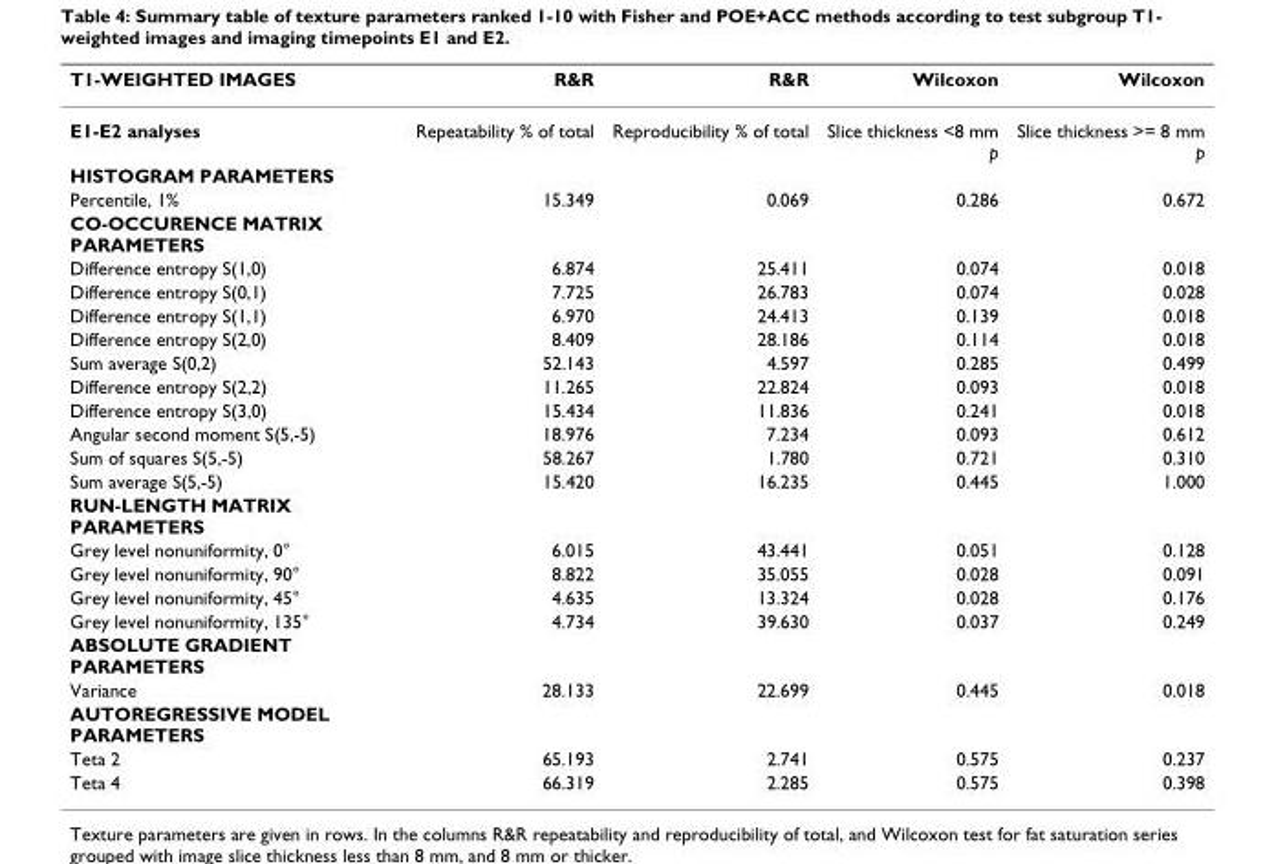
<table><thead><tr><td>T1-WEIGHTED IMAGES</td><td>R&amp;R</td><td>R&amp;R</td><td>Wilcoxon</td><td>Wilcoxon</td></tr></thead><tbody><tr><td>E1-E2 analyses</td><td>Repeatability % of total</td><td>Reproducibility % of total</td><td>Slice thickness &lt;8 mm p</td><td>Slice thickness &gt;= 8 mm p</td></tr><tr><td colspan="5">HISTOGRAM PARAMETERS</td></tr><tr><td>Percentile, 1%</td><td>15.349</td><td>0.069</td><td>0.286</td><td>0.672</td></tr><tr><td colspan="5">CO-OCCURENCE MATRIX PARAMETERS</td></tr><tr><td>Difference entropy S(1,0)</td><td>6.874</td><td>25.411</td><td>0.074</td><td>0.018</td></tr><tr><td>Difference entropy S(0,1)</td><td>7.725</td><td>26.783</td><td>0.074</td><td>0.028</td></tr><tr><td>Difference entropy S(1,1)</td><td>6.970</td><td>24.413</td><td>0.139</td><td>0.018</td></tr><tr><td>Difference entropy S(2,0)</td><td>8.409</td><td>28.186</td><td>0.114</td><td>0.018</td></tr><tr><td>Sum average S(0,2)</td><td>52.143</td><td>4.597</td><td>0.285</td><td>0.499</td></tr><tr><td>Difference entropy S(2,2)</td><td>11.265</td><td>22.824</td><td>0.093</td><td>0.018</td></tr><tr><td>Difference entropy S(3,0)</td><td>15.434</td><td>11.836</td><td>0.241</td><td>0.018</td></tr><tr><td>Angular second moment S(5,-5)</td><td>18.976</td><td>7.234</td><td>0.093</td><td>0.612</td></tr><tr><td>Sum of squares S(5,-5)</td><td>58.267</td><td>1.780</td><td>0.721</td><td>0.310</td></tr><tr><td>Sum average S(5,-5)</td><td>15.420</td><td>16.235</td><td>0.445</td><td>1.000</td></tr><tr><td colspan="5">RUN-LENGTH MATRIX PARAMETERS</td></tr><tr><td>Grey level nonuniformity, 0°</td><td>6.015</td><td>43.441</td><td>0.051</td><td>0.128</td></tr><tr><td>Grey level nonuniformity, 90°</td><td>8.822</td><td>35.055</td><td>0.028</td><td>0.091</td></tr><tr><td>Grey level nonuniformity, 45°</td><td>4.635</td><td>13.324</td><td>0.028</td><td>0.176</td></tr><tr><td>Grey level nonuniformity, 135°</td><td>4.734</td><td>39.630</td><td>0.037</td><td>0.249</td></tr><tr><td colspan="5">ABSOLUTE GRADIENT PARAMETERS</td></tr><tr><td>Variance</td><td>28.133</td><td>22.699</td><td>0.445</td><td>0.018</td></tr><tr><td colspan="5">AUTOREGRESSIVE MODEL PARAMETERS</td></tr><tr><td>Teta 2</td><td>65.193</td><td>2.741</td><td>0.575</td><td>0.237</td></tr><tr><td>Teta 4</td><td>66.319</td><td>2.285</td><td>0.575</td><td>0.398</td></tr></tbody></table>